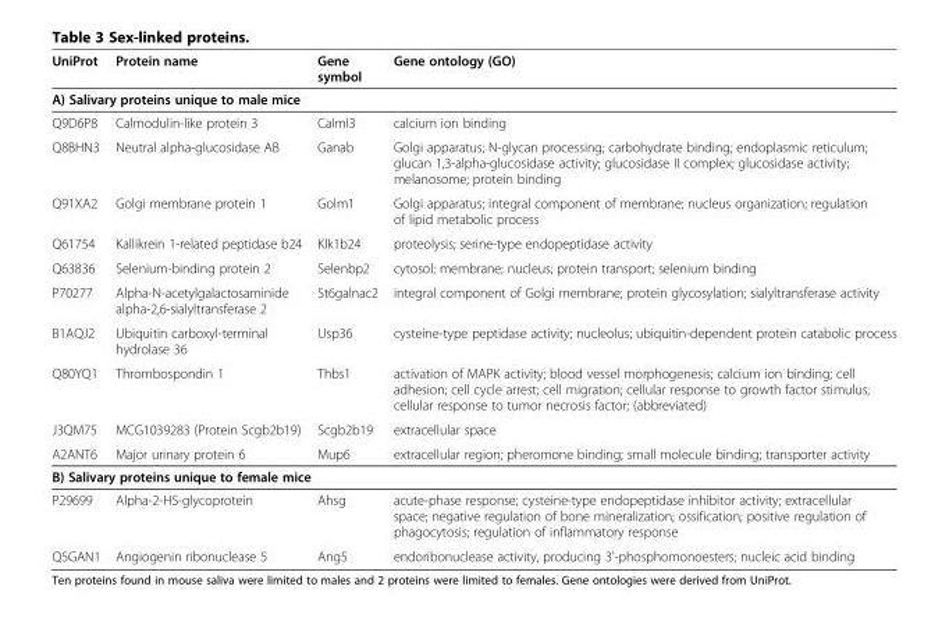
<table><thead><tr><td>UniProt</td><td>Protein name</td><td>Gene symbol</td><td>Gene ontology (GO)</td></tr></thead><tbody><tr><td colspan="4">A) Salivary proteins unique to male mice</td></tr><tr><td>Q9D6P8</td><td>Calmodulin-like protein 3</td><td>Calml3</td><td>calcium ion binding</td></tr><tr><td>Q8BHN3</td><td>Neutral alpha-glucosidase AB</td><td>Ganab</td><td>Golgi apparatus; N-glycan processing; carbohydrate binding; endoplasmic reticulum; glucan 1,3-alpha-glucosidase activity; glucosidase II complex; glucosidase activity; melanosome; protein binding</td></tr><tr><td>Q91XA2</td><td>Golgi membrane protein 1</td><td>Golm1</td><td>Golgi apparatus; integral component of membrane; nucleus organization; regulation of lipid metabolic process</td></tr><tr><td>Q61754</td><td>Kallikrein 1-related peptidase b24</td><td>Klk1b24</td><td>proteolysis; serine-type endopeptidase activity</td></tr><tr><td>Q63836</td><td>Selenium-binding protein 2</td><td>Selenbp2</td><td>cytosol; membrane; nucleus; protein transport; selenium binding</td></tr><tr><td>P70277</td><td>Alpha-N-acetylgalactosaminide alpha-2,6-sialyltransferase 2</td><td>St6galnac2</td><td>integral component of Golgi membrane; protein glycosylation; sialyltransferase activity</td></tr><tr><td>B1AQJ2</td><td>Ubiquitin carboxyl-terminal hydrolase 36</td><td>Usp36</td><td>cysteine-type peptidase activity; nucleolus; ubiquitin-dependent protein catabolic process</td></tr><tr><td>Q80YQ1</td><td>Thrombospondin 1</td><td>Thbs1</td><td>activation of MAPK activity; blood vessel morphogenesis; calcium ion binding; cell adhesion; cell cycle arrest; cell migration; cellular response to growth factor stimulus; cellular response to tumor necrosis factor; (abbreviated)</td></tr><tr><td>J3QM75</td><td>MCG1039283 (Protein Scgb2b19)</td><td>Scgb2b19</td><td>extracellular space</td></tr><tr><td>A2ANT6</td><td>Major urinary protein 6</td><td>Mup6</td><td>extracellular region; pheromone binding; small molecule binding; transporter activity</td></tr><tr><td colspan="4">B) Salivary proteins unique to female mice</td></tr><tr><td>P29699</td><td>Alpha-2-HS-glycoprotein</td><td>Ahsg</td><td>acute-phase response; cysteine-type endopeptidase inhibitor activity; extracellular space; negative regulation of bone mineralization; ossification; positive regulation of phagocytosis; regulation of inflammatory response</td></tr><tr><td>Q5GAN1</td><td>Angiogenin ribonuclease 5</td><td>Ang5</td><td>endoribonuclease activity, producing 3&#x27;-phosphomonoesters; nucleic acid binding</td></tr></tbody></table>